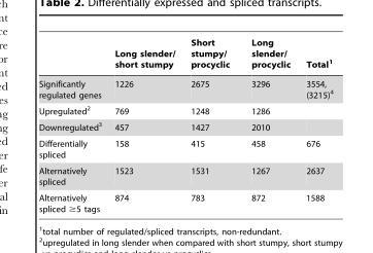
<table><thead><tr><td></td><td>Long slender/ short stumpy</td><td>Short stumpy/ procyclic</td><td>Long slender/ procyclic</td><td>Total<sup>1</sup></td></tr></thead><tbody><tr><td>Significantly regulated genes</td><td>1226</td><td>2675</td><td>3296</td><td>3554, (3215)<sup>4</sup></td></tr><tr><td>Upregulated<sup>2</sup></td><td>769</td><td>1248</td><td>1286</td><td></td></tr><tr><td>Downregulated<sup>3</sup></td><td>457</td><td>1427</td><td>2010</td><td></td></tr><tr><td>Differentially spliced</td><td>158</td><td>415</td><td>458</td><td>676</td></tr><tr><td>Alternatively spliced</td><td>1523</td><td>1531</td><td>1267</td><td>2637</td></tr><tr><td>Alternatively spliced ≥5 tags</td><td>874</td><td>783</td><td>872</td><td>1588</td></tr></tbody></table>